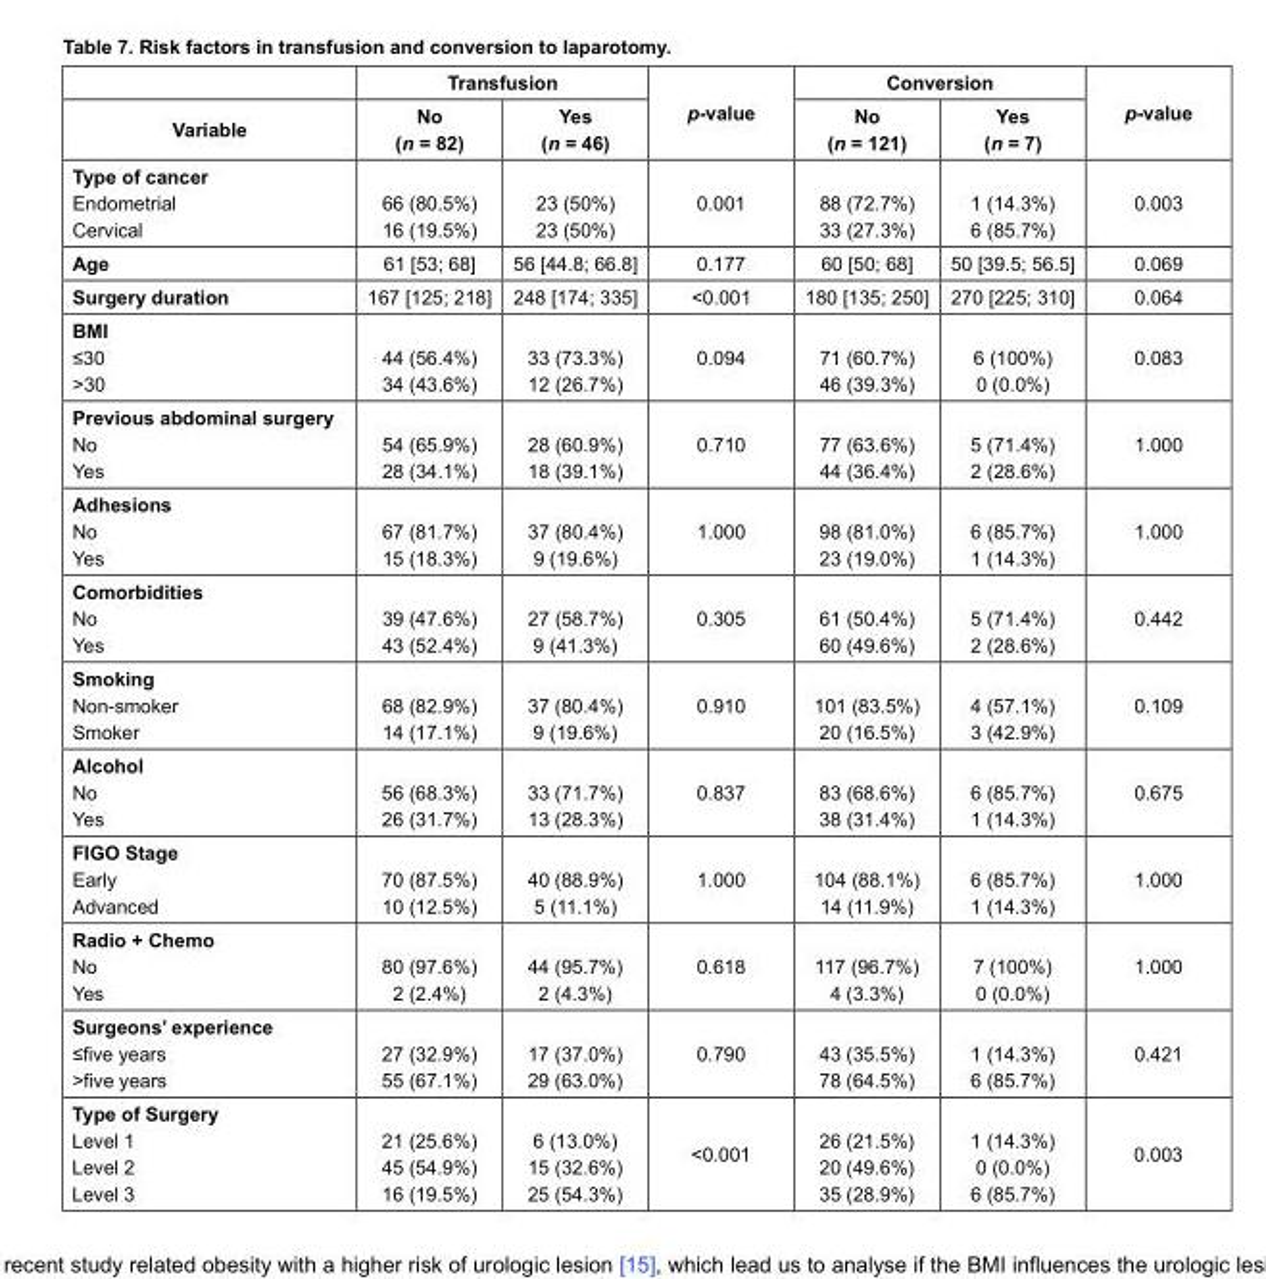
<table><thead><tr><td rowspan="2">Variable</td><td colspan="2">Transfusion</td><td rowspan="2">p-value</td><td colspan="2">Conversion</td><td rowspan="2">p-value</td></tr><tr><td>No (n = 82)</td><td>Yes (n = 46)</td><td>No (n = 121)</td><td>Yes (n = 7)</td></tr></thead><tbody><tr><td>Type of cancer Endometrial Cervical</td><td>66 (80.5%) 16 (19.5%)</td><td>23 (50%) 23 (50%)</td><td>0.001</td><td>88 (72.7%) 33 (27.3%)</td><td>1 (14.3%) 6 (85.7%)</td><td>0.003</td></tr><tr><td>Age</td><td>61 [53; 68]</td><td>56 [44.8; 66.8]</td><td>0.177</td><td>60 [50; 68]</td><td>50 [39.5; 56.5]</td><td>0.069</td></tr><tr><td>Surgery duration</td><td>167 [125; 218]</td><td>248 [174; 335]</td><td>&lt;0.001</td><td>180 [135; 250]</td><td>270 [225; 310]</td><td>0.064</td></tr><tr><td>BMI ≤30 &gt;30</td><td>44 (56.4%) 34 (43.6%)</td><td>33 (73.3%) 12 (26.7%)</td><td>0.094</td><td>71 (60.7%) 46 (39.3%)</td><td>6 (100%) 0 (0.0%)</td><td>0.083</td></tr><tr><td>Previous abdominal surgery No Yes</td><td>54 (65.9%) 28 (34.1%)</td><td>28 (60.9%) 18 (39.1%)</td><td>0.710</td><td>77 (63.6%) 44 (36.4%)</td><td>5 (71.4%) 2 (28.6%)</td><td>1.000</td></tr><tr><td>Adhesions No Yes</td><td>67 (81.7%) 15 (18.3%)</td><td>37 (80.4%) 9 (19.6%)</td><td>1.000</td><td>98 (81.0%) 23 (19.0%)</td><td>6 (85.7%) 1 (14.3%)</td><td>1.000</td></tr><tr><td>Comorbidities No Yes</td><td>39 (47.6%) 43 (52.4%)</td><td>27 (58.7%) 9 (41.3%)</td><td>0.305</td><td>61 (50.4%) 60 (49.6%)</td><td>5 (71.4%) 2 (28.6%)</td><td>0.442</td></tr><tr><td>Smoking Non-smoker Smoker</td><td>68 (82.9%) 14 (17.1%)</td><td>37 (80.4%) 9 (19.6%)</td><td>0.910</td><td>101 (83.5%) 20 (16.5%)</td><td>4 (57.1%) 3 (42.9%)</td><td>0.109</td></tr><tr><td>Alcohol No Yes</td><td>56 (68.3%) 26 (31.7%)</td><td>33 (71.7%) 13 (28.3%)</td><td>0.837</td><td>83 (68.6%) 38 (31.4%)</td><td>6 (85.7%) 1 (14.3%)</td><td>0.675</td></tr><tr><td>FIGO Stage Early Advanced</td><td>70 (87.5%) 10 (12.5%)</td><td>40 (88.9%) 5 (11.1%)</td><td>1.000</td><td>104 (88.1%) 14 (11.9%)</td><td>6 (85.7%) 1 (14.3%)</td><td>1.000</td></tr><tr><td>Radio + Chemo No Yes</td><td>80 (97.6%) 2 (2.4%)</td><td>44 (95.7%) 2 (4.3%)</td><td>0.618</td><td>117 (96.7%) 4 (3.3%)</td><td>7 (100%) 0 (0.0%)</td><td>1.000</td></tr><tr><td>Surgeons’ experience ≤five years &gt;five years</td><td>27 (32.9%) 55 (67.1%)</td><td>17 (37.0%) 29 (63.0%)</td><td>0.790</td><td>43 (35.5%) 78 (64.5%)</td><td>1 (14.3%) 6 (85.7%)</td><td>0.421</td></tr><tr><td>Type of Surgery Level 1 Level 2 Level 3</td><td>21 (25.6%) 45 (54.9%) 16 (19.5%)</td><td>6 (13.0%) 15 (32.6%) 25 (54.3%)</td><td>&lt;0.001</td><td>26 (21.5%) 20 (49.6%) 35 (28.9%)</td><td>1 (14.3%) 0 (0.0%) 6 (85.7%)</td><td>0.003</td></tr></tbody></table>